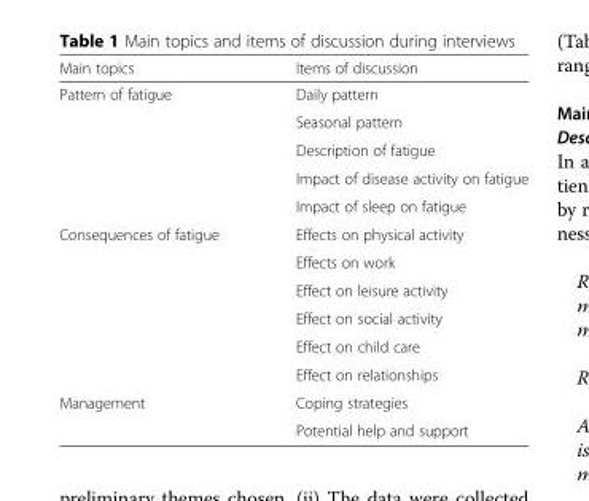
<table><thead><tr><td>Main topics</td><td>Items of discussion</td></tr></thead><tbody><tr><td rowspan="5">Pattern of fatigue</td><td>Daily pattern</td></tr><tr><td>Seasonal pattern</td></tr><tr><td>Description of fatigue</td></tr><tr><td>Impact of disease activity on fatigue</td></tr><tr><td>Impact of sleep on fatigue</td></tr><tr><td rowspan="6">Consequences of fatigue</td><td>Effects on physical activity</td></tr><tr><td>Effects on work</td></tr><tr><td>Effect on leisure activity</td></tr><tr><td>Effect on social activity</td></tr><tr><td>Effect on child care</td></tr><tr><td>Effect on relationships</td></tr><tr><td rowspan="2">Management</td><td>Coping strategies</td></tr><tr><td>Potential help and support</td></tr></tbody></table>